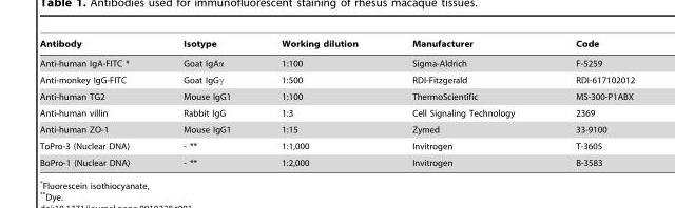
<table><thead><tr><td>Antibody</td><td>Isotype</td><td>Working dilution</td><td>Manufacturer</td><td>Code</td></tr></thead><tbody><tr><td>Anti-human IgA-FITC *</td><td>Goat IgAα</td><td>1:100</td><td>Sigma-Aldrich</td><td>F-5259</td></tr><tr><td>Anti-monkey IgG-FITC</td><td>Goat IgGγ</td><td>1:500</td><td>RDI-Fitzgerald</td><td>RDI-617102012</td></tr><tr><td>Anti-human TG2</td><td>Mouse IgG1</td><td>1:100</td><td>ThermoScientific</td><td>MS-300-P1ABX</td></tr><tr><td>Anti-human villin</td><td>Rabbit IgG</td><td>1:3</td><td>Cell Signaling Technology</td><td>2369</td></tr><tr><td>Anti-human ZO-1</td><td>Mouse IgG1</td><td>1:15</td><td>Zymed</td><td>33-9100</td></tr><tr><td>ToPro-3 (Nuclear DNA)</td><td>- **</td><td>1:1,000</td><td>Invitrogen</td><td>T-3605</td></tr><tr><td>BoPro-1 (Nuclear DNA)</td><td>- **</td><td>1:2,000</td><td>Invitrogen</td><td>B-3583</td></tr></tbody></table>